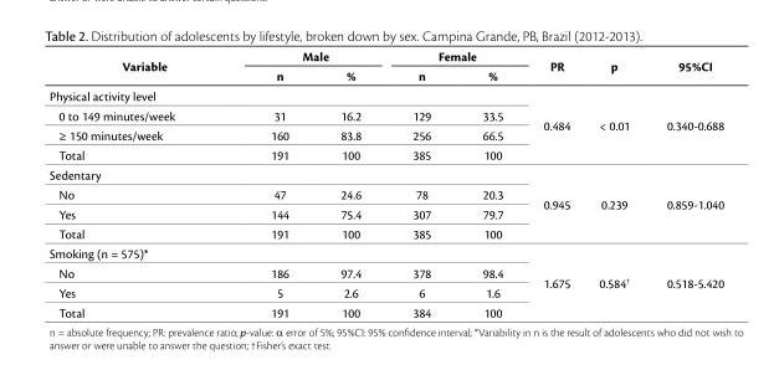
<table><thead><tr><td rowspan="2">Variable</td><td colspan="2">Male</td><td colspan="2">Female</td><td rowspan="2">PR</td><td rowspan="2">p</td><td rowspan="2">95%CI</td></tr><tr><td>n</td><td>%</td><td>n</td><td>%</td></tr></thead><tbody><tr><td colspan="5">Physical activity level</td><td rowspan="4">0.484</td><td rowspan="4">&lt; 0.01</td><td rowspan="4">0.340-0.688</td></tr><tr><td>0 to 149 minutes/week</td><td>31</td><td>16.2</td><td>129</td><td>33.5</td></tr><tr><td>≥ 150 minutes/week</td><td>160</td><td>83.8</td><td>256</td><td>66.5</td></tr><tr><td>Total</td><td>191</td><td>100</td><td>385</td><td>100</td></tr><tr><td colspan="5">Sedentary</td><td rowspan="4">0.945</td><td rowspan="4">0.239</td><td rowspan="4">0.859-1.040</td></tr><tr><td>No</td><td>47</td><td>24.6</td><td>78</td><td>20.3</td></tr><tr><td>Yes</td><td>144</td><td>75.4</td><td>307</td><td>79.7</td></tr><tr><td>Total</td><td>191</td><td>100</td><td>385</td><td>100</td></tr><tr><td colspan="5">Smoking (n = 575)*</td><td rowspan="4">1.675</td><td rowspan="4">0.584†</td><td rowspan="4">0.518-5.420</td></tr><tr><td>No</td><td>186</td><td>97.4</td><td>378</td><td>98.4</td></tr><tr><td>Yes</td><td>5</td><td>2.6</td><td>6</td><td>1.6</td></tr><tr><td>Total</td><td>191</td><td>100</td><td>384</td><td>100</td></tr></tbody></table>